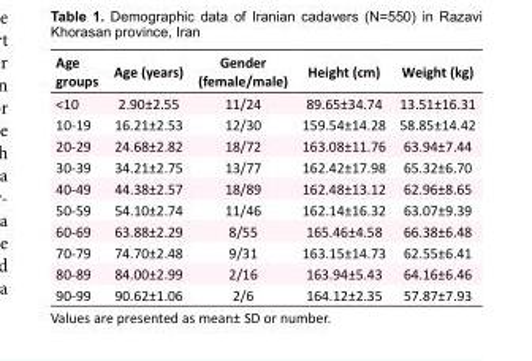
<table><tbody><tr><td>Age groups</td><td>Age (years)</td><td>Gender (female/male)</td><td>Height (cm)</td><td>Weight (kg)</td></tr><tr><td>&lt;10</td><td>2.90±2.55</td><td>11/24</td><td>89.65±34.74</td><td>13.51±16.31</td></tr><tr><td>10-19</td><td>16.21±2.53</td><td>12/30</td><td>159.54±14.28</td><td>58.85±14.42</td></tr><tr><td>20-29</td><td>24.68±2.82</td><td>18/72</td><td>163.08±11.76</td><td>63.94±7.44</td></tr><tr><td>30-39</td><td>34.21±2.75</td><td>13/77</td><td>162.42±17.98</td><td>65.32±6.70</td></tr><tr><td>40-49</td><td>44.38±2.57</td><td>18/89</td><td>162.48±13.12</td><td>62.96±8.65</td></tr><tr><td>50-59</td><td>54.10±2.74</td><td>11/46</td><td>162.14±16.32</td><td>63.07±9.39</td></tr><tr><td>60-69</td><td>63.88±2.29</td><td>8/55</td><td>165.46±4.58</td><td>66.38±6.48</td></tr><tr><td>70-79</td><td>74.70±2.48</td><td>9/31</td><td>163.15±14.73</td><td>62.55±6.41</td></tr><tr><td>80-89</td><td>84.00±2.99</td><td>2/16</td><td>163.94±5.43</td><td>64.16±6.46</td></tr><tr><td>90-99</td><td>90.62±1.06</td><td>2/6</td><td>164.12±2.35</td><td>57.87±7.93</td></tr></tbody></table>